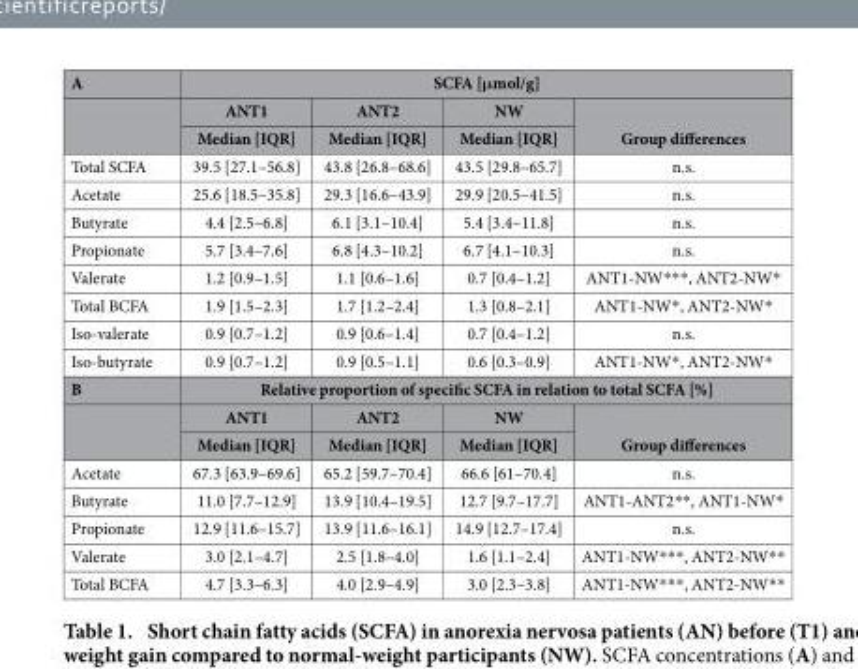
<table><thead><tr><td rowspan="3">A</td><td colspan="4">SCFA [μmol/g]</td></tr><tr><td rowspan="2">ANT1 Median [IQR]</td><td rowspan="2">ANT2 Median [IQR]</td><td rowspan="2">NW Median [IQR]</td><td rowspan="2">Group differences</td></tr><tr></tr></thead><tbody><tr><td>Total SCFA</td><td>39.5 [27.1–56.8]</td><td>43.8 [26.8–68.6]</td><td>43.5 [29.8–65.7]</td><td>n.s.</td></tr><tr><td>Acetate</td><td>25.6 [18.5–35.8]</td><td>29.3 [16.6–43.9]</td><td>29.9 [20.5–41.5]</td><td>n.s.</td></tr><tr><td>Butyrate</td><td>4.4 [2.5–6.8]</td><td>6.1 [3.1–10.4]</td><td>5.4 [3.4–11.8]</td><td>n.s.</td></tr><tr><td>Propionate</td><td>5.7 [3.4–7.6]</td><td>6.8 [4.3–10.2]</td><td>6.7 [4.1–10.3]</td><td>n.s.</td></tr><tr><td>Valerate</td><td>1.2 [0.9–1.5]</td><td>1.1 [0.6–1.6]</td><td>0.7 [0.4–1.2]</td><td>ANT1-NW* * * , ANT2-NW*</td></tr><tr><td>Total BCFA</td><td>1.9 [1.5–2.3]</td><td>1.7 [1.2–2.4]</td><td>1.3 [0.8–2.1]</td><td>ANT1-NW* , ANT2-NW*</td></tr><tr><td>Iso-valerate</td><td>0.9 [0.7–1.2]</td><td>0.9 [0.6–1.4]</td><td>0.7 [0.4–1.2]</td><td>n.s.</td></tr><tr><td>Iso-butyrate</td><td>0.9 [0.7–1.2]</td><td>0.9 [0.5–1.1]</td><td>0.6 [0.3–0.9]</td><td>ANT1-NW* , ANT2-NW*</td></tr><tr><td rowspan="3">B</td><td colspan="4">Relative proportion of specific SCFA in relation to total SCFA [%]</td></tr><tr><td>ANT1</td><td>ANT2</td><td>NW</td><td></td></tr><tr><td>Median [IQR]</td><td>Median [IQR]</td><td>Median [IQR]</td><td>Group differences</td></tr><tr><td>Acetate</td><td>67.3 [63.9–69.6]</td><td>65.2 [59.7–70.4]</td><td>66.6 [61–70.4]</td><td>n.s.</td></tr><tr><td>Butyrate</td><td>11.0 [7.7–12.9]</td><td>13.9 [10.4–19.5]</td><td>12.7 [9.7–17.7]</td><td>ANT1-ANT2* * , ANT1-NW*</td></tr><tr><td>Propionate</td><td>12.9 [11.6–15.7]</td><td>13.9 [11.6–16.1]</td><td>14.9 [12.7–17.4]</td><td>n.s.</td></tr><tr><td>Valerate</td><td>3.0 [2.1–4.7]</td><td>2.5 [1.8–4.0]</td><td>1.6 [1.1–2.4]</td><td>ANT1-NW* * * , ANT2-NW* *</td></tr><tr><td>Total BCFA</td><td>4.7 [3.3–6.3]</td><td>4.0 [2.9–4.9]</td><td>3.0 [2.3–3.8]</td><td>ANT1-NW* * * , ANT2-NW* *</td></tr></tbody></table>